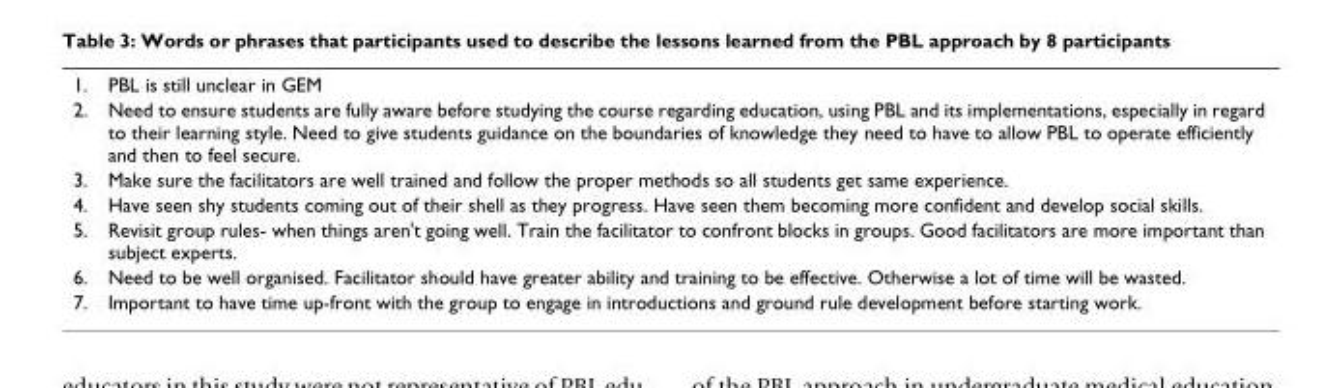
<table><tbody><tr><td>1.</td><td>PBL is still unclear in GEM</td></tr><tr><td>2.</td><td>Need to ensure students are fully aware before studying the course regarding education, using PBL and its implementations, especially in regard to their learning style. Need to give students guidance on the boundaries of knowledge they need to have to allow PBL to operate efficiently and then to feel secure.</td></tr><tr><td>3.</td><td>Make sure the facilitators are well trained and follow the proper methods so all students get same experience.</td></tr><tr><td>4.</td><td>Have seen shy students coming out of their shell as they progress. Have seen them becoming more confident and develop social skills.</td></tr><tr><td>5.</td><td>Revisit group rules- when things aren&#x27;t going well. Train the facilitator to confront blocks in groups. Good facilitators are more important than subject experts.</td></tr><tr><td>6.</td><td>Need to be well organised. Facilitator should have greater ability and training to be effective. Otherwise a lot of time will be wasted.</td></tr><tr><td>7.</td><td>Important to have time up-front with the group to engage in introductions and ground rule development before starting work.</td></tr></tbody></table>